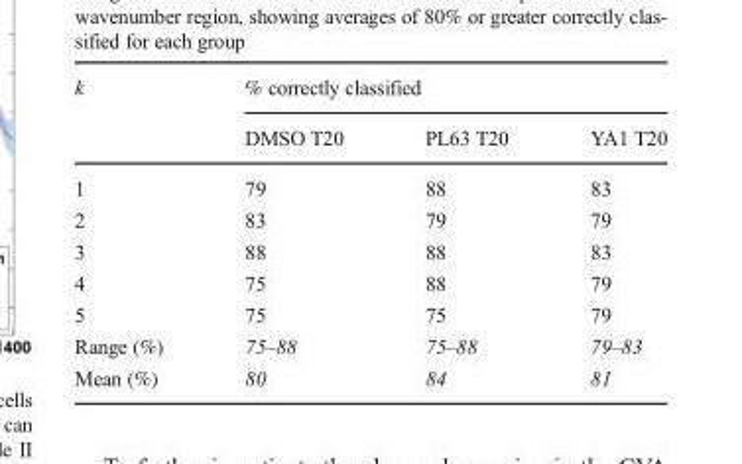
<table><thead><tr><td rowspan="2">k</td><td colspan="3">% correctly classified</td></tr><tr><td>DMSO T20</td><td>PL63 T20</td><td>YA1 T20</td></tr></thead><tbody><tr><td>1</td><td>79</td><td>88</td><td>83</td></tr><tr><td>2</td><td>83</td><td>79</td><td>79</td></tr><tr><td>3</td><td>88</td><td>88</td><td>83</td></tr><tr><td>4</td><td>75</td><td>88</td><td>79</td></tr><tr><td>5</td><td>75</td><td>75</td><td>79</td></tr><tr><td>Range (%)</td><td>75–88</td><td>75–88</td><td>79–83</td></tr><tr><td>Mean (%)</td><td>80</td><td>84</td><td>81</td></tr></tbody></table>